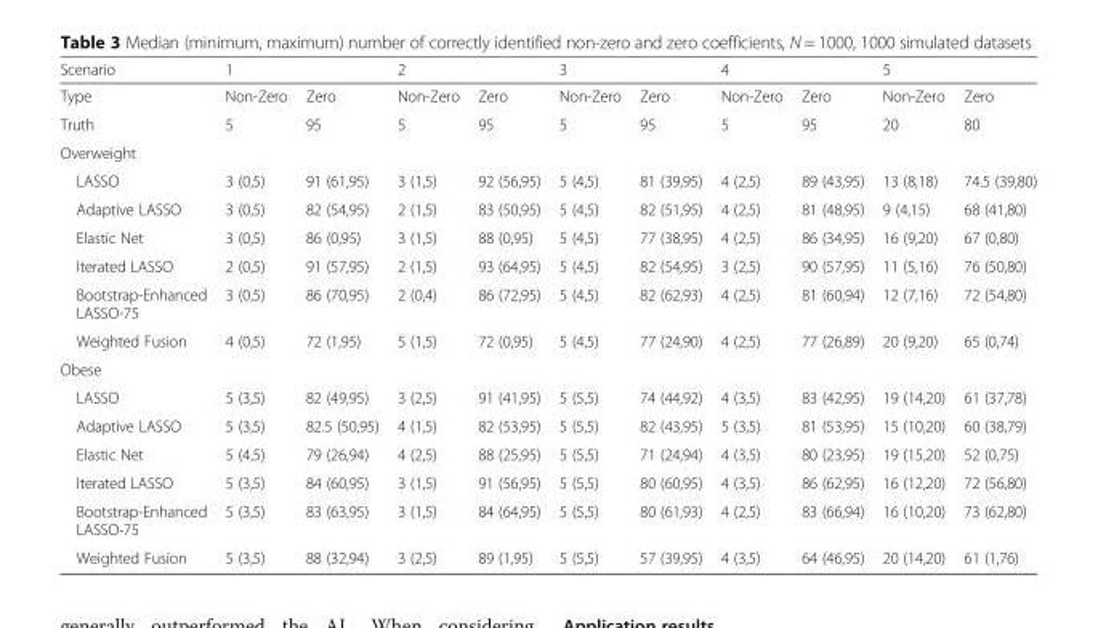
<table><thead><tr><td rowspan="2">Scenario Type</td><td colspan="2">1</td><td colspan="2">2</td><td colspan="2">3</td><td colspan="2">4</td><td colspan="2">5</td></tr><tr><td>Non-Zero</td><td>Zero</td><td>Non-Zero</td><td>Zero</td><td>Non-Zero</td><td>Zero</td><td>Non-Zero</td><td>Zero</td><td>Non-Zero</td><td>Zero</td></tr></thead><tbody><tr><td>Truth</td><td>5</td><td>95</td><td>5</td><td>95</td><td>5</td><td>95</td><td>5</td><td>95</td><td>20</td><td>80</td></tr><tr><td colspan="11">Overweight</td></tr><tr><td>LASSO</td><td>3 (0,5)</td><td>91 (61,95)</td><td>3 (1,5)</td><td>92 (56,95)</td><td>5 (4,5)</td><td>81 (39,95)</td><td>4 (2,5)</td><td>89 (43,95)</td><td>13 (8,18)</td><td>74.5 (39,80)</td></tr><tr><td>Adaptive LASSO</td><td>3 (0,5)</td><td>82 (54,95)</td><td>2 (1,5)</td><td>83 (50,95)</td><td>5 (4,5)</td><td>82 (51,95)</td><td>4 (2,5)</td><td>81 (48,95)</td><td>9 (4,15)</td><td>68 (41,80)</td></tr><tr><td>Elastic Net</td><td>3 (0,5)</td><td>86 (0,95)</td><td>3 (1,5)</td><td>88 (0,95)</td><td>5 (4,5)</td><td>77 (38,95)</td><td>4 (2,5)</td><td>86 (34,95)</td><td>16 (9,20)</td><td>67 (0,80)</td></tr><tr><td>Iterated LASSO</td><td>2 (0,5)</td><td>91 (57,95)</td><td>2 (1,5)</td><td>93 (64,95)</td><td>5 (4,5)</td><td>82 (54,95)</td><td>3 (2,5)</td><td>90 (57,95)</td><td>11 (5,16)</td><td>76 (50,80)</td></tr><tr><td>Bootstrap-Enhanced LASSO-75</td><td>3 (0,5)</td><td>86 (70,95)</td><td>2 (0,4)</td><td>86 (72,95)</td><td>5 (4,5)</td><td>82 (62,93)</td><td>4 (2,5)</td><td>81 (60,94)</td><td>12 (7,16)</td><td>72 (54,80)</td></tr><tr><td>Weighted Fusion</td><td>4 (0,5)</td><td>72 (1,95)</td><td>5 (1,5)</td><td>72 (0,95)</td><td>5 (4,5)</td><td>77 (24,90)</td><td>4 (2,5)</td><td>77 (26,89)</td><td>20 (9,20)</td><td>65 (0,74)</td></tr><tr><td colspan="11">Obese</td></tr><tr><td>LASSO</td><td>5 (3,5)</td><td>82 (49,95)</td><td>3 (2,5)</td><td>91 (41,95)</td><td>5 (5,5)</td><td>74 (44,92)</td><td>4 (3,5)</td><td>83 (42,95)</td><td>19 (14,20)</td><td>61 (37,78)</td></tr><tr><td>Adaptive LASSO</td><td>5 (3,5)</td><td>82.5 (50,95)</td><td>4 (1,5)</td><td>82 (53,95)</td><td>5 (5,5)</td><td>82 (43,95)</td><td>5 (3,5)</td><td>81 (53,95)</td><td>15 (10,20)</td><td>60 (38,79)</td></tr><tr><td>Elastic Net</td><td>5 (4,5)</td><td>79 (26,94)</td><td>4 (2,5)</td><td>88 (25,95)</td><td>5 (5,5)</td><td>71 (24,94)</td><td>4 (3,5)</td><td>80 (23,95)</td><td>19 (15,20)</td><td>52 (0,75)</td></tr><tr><td>Iterated LASSO</td><td>5 (3,5)</td><td>84 (60,95)</td><td>3 (1,5)</td><td>91 (56,95)</td><td>5 (5,5)</td><td>80 (60,95)</td><td>4 (3,5)</td><td>86 (62,95)</td><td>16 (12,20)</td><td>72 (56,80)</td></tr><tr><td>Bootstrap-Enhanced LASSO-75</td><td>5 (3,5)</td><td>83 (63,95)</td><td>3 (1,5)</td><td>84 (64,95)</td><td>5 (5,5)</td><td>80 (61,93)</td><td>4 (2,5)</td><td>83 (66,94)</td><td>16 (10,20)</td><td>73 (62,80)</td></tr><tr><td>Weighted Fusion</td><td>5 (3,5)</td><td>88 (32,94)</td><td>3 (2,5)</td><td>89 (1,95)</td><td>5 (5,5)</td><td>57 (39,95)</td><td>4 (3,5)</td><td>64 (46,95)</td><td>20 (14,20)</td><td>61 (1,76)</td></tr></tbody></table>